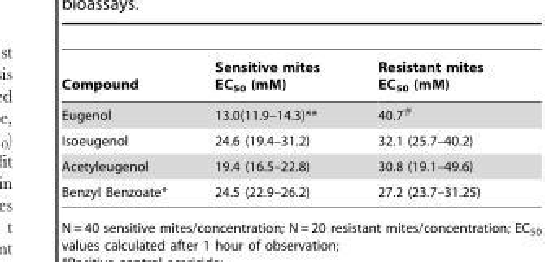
<table><thead><tr><td>Compound</td><td>Sensitive mites EC<sub>50</sub> (mM)</td><td>Resistant mites EC<sub>50</sub> (mM)</td></tr></thead><tbody><tr><td>Eugenol</td><td>13.0(11.9–14.3)**</td><td>40.7#</td></tr><tr><td>Isoeugenol</td><td>24.6 (19.4–31.2)</td><td>32.1 (25.7–40.2)</td></tr><tr><td>Acetyleugenol</td><td>19.4 (16.5–22.8)</td><td>30.8 (19.1–49.6)</td></tr><tr><td>Benzyl Benzoate*</td><td>24.5 (22.9–26.2)</td><td>27.2 (23.7–31.25)</td></tr></tbody></table>